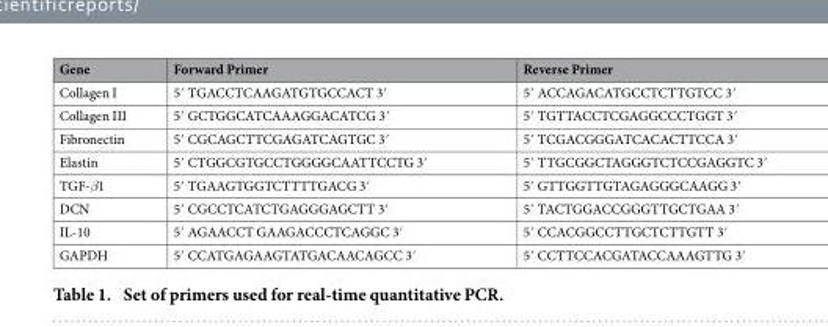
<table><thead><tr><td>Gene</td><td>Forward Primer</td><td>Reverse Primer</td></tr></thead><tbody><tr><td>Collagen I</td><td>5′ TGACCTCAAGATGTGCCACT 3′</td><td>5′ ACCAGACATGCCTCTTGTCC 3′</td></tr><tr><td>Collagen III</td><td>5′ GCTGGCATCAAAGGACATCG 3′</td><td>5′ TGTTACCTCGAGGCCCTGGT 3′</td></tr><tr><td>Fibronectin</td><td>5′ CGCAGCTTCGAGATCAGTGC 3′</td><td>5′ TCGACGGGATCACACTTCCA 3′</td></tr><tr><td>Elastin</td><td>5′ CTGGCGTGCCTGGGGCAATTCCTG 3′</td><td>5′ TTGCGGCTAGGGTCTCCGAGGTC 3′</td></tr><tr><td>TGF-β1</td><td>5′ TGAAGTGGTCTTTTGACG 3′</td><td>5′ GTTGGTTGTAGAGGGCAAGG 3′</td></tr><tr><td>DCN</td><td>5′ CGCCTCATCTGAGGGAGCTT 3′</td><td>5′ TACTGGACCGGGTTGCTGAA 3′</td></tr><tr><td>IL-10</td><td>5′ AGAACCT GAAGACCCTCAGGC 3′</td><td>5′ CCACGGCCTTGCTCTTGTT 3′</td></tr><tr><td>GAPDH</td><td>5′ CCATGAGAAGTATGACAACAGCC 3′</td><td>5′ CCTTCCACGATACCAAAGTTG 3′</td></tr></tbody></table>